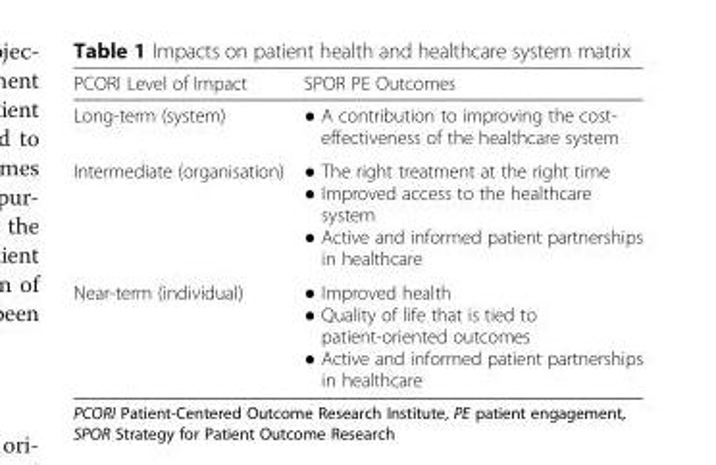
<table><thead><tr><td>PCORI Level of Impact</td><td>SPOR PE Outcomes</td></tr></thead><tbody><tr><td>Long-term (system)</td><td>● A contribution to improving the cost- effectiveness of the healthcare system</td></tr><tr><td>Intermediate (organisation)</td><td>● The right treatment at the right time ● Improved access to the healthcare system ● Active and informed patient partnerships in healthcare</td></tr><tr><td>Near-term (individual)</td><td>● Improved health ● Quality of life that is tied to patient-oriented outcomes ● Active and informed patient partnerships in healthcare</td></tr></tbody></table>